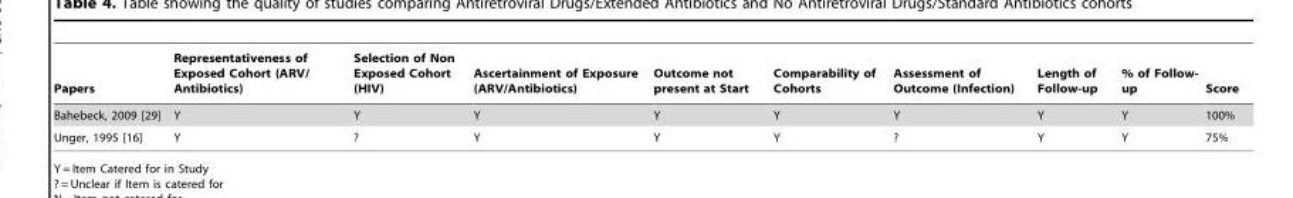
<table><thead><tr><td>Papers</td><td>Representativeness of Exposed Cohort (ARV/ Antibiotics)</td><td>Selection of Non Exposed Cohort (HIV)</td><td>Ascertainment of Exposure (ARV/Antibiotics)</td><td>Outcome not present at Start</td><td>Comparability of Cohorts</td><td>Assessment of Outcome (Infection)</td><td>Length of Follow-up</td><td>% of Follow- up</td><td>Score</td></tr></thead><tbody><tr><td>Bahebeck, 2009 [29]</td><td>Y</td><td>Y</td><td>Y</td><td>Y</td><td>Y</td><td>Y</td><td>Y</td><td>Y</td><td>100%</td></tr><tr><td>Unger, 1995 [16]</td><td>Y</td><td>?</td><td>Y</td><td>Y</td><td>Y</td><td>?</td><td>Y</td><td>Y</td><td>75%</td></tr></tbody></table>